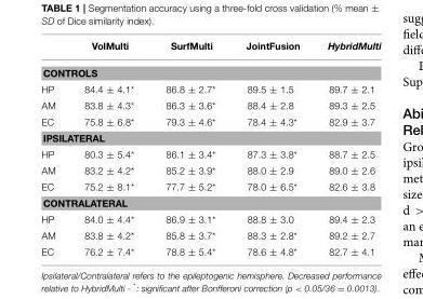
<table><thead><tr><td></td><td>VolMulti</td><td>SurfMulti</td><td>JointFusion</td><td>HybridMulti</td></tr></thead><tbody><tr><td colspan="5">CONTROLS</td></tr><tr><td>HP</td><td>84.4 ± 4.1*</td><td>86.8 ± 2.7*</td><td>89.5 ± 1.5</td><td>89.7 ± 2.1</td></tr><tr><td>AM</td><td>83.8 ± 4.3*</td><td>86.3 ± 3.6*</td><td>88.4 ± 2.8</td><td>89.3 ± 2.5</td></tr><tr><td>EC</td><td>75.8 ± 6.8*</td><td>79.3 ± 4.6*</td><td>78.4 ± 4.3*</td><td>82.9 ± 3.7</td></tr><tr><td colspan="5">IPSILATERAL</td></tr><tr><td>HP</td><td>80.3 ± 5.4*</td><td>86.1 ± 3.4*</td><td>87.3 ± 3.8*</td><td>88.7 ± 2.5</td></tr><tr><td>AM</td><td>83.2 ± 4.2*</td><td>85.2 ± 3.9*</td><td>88.0 ± 2.9</td><td>89.0 ± 2.6</td></tr><tr><td>EC</td><td>75.2 ± 8.1*</td><td>77.7 ± 5.2*</td><td>78.0 ± 6.5*</td><td>82.6 ± 3.8</td></tr><tr><td colspan="5">CONTRALATERAL</td></tr><tr><td>HP</td><td>84.0 ± 4.4*</td><td>86.9 ± 3.1*</td><td>88.8 ± 3.0</td><td>89.4 ± 2.3</td></tr><tr><td>AM</td><td>83.8 ± 4.2*</td><td>85.8 ± 3.7*</td><td>88.3 ± 2.8*</td><td>89.2 ± 2.7</td></tr><tr><td>EC</td><td>76.2 ± 7.4*</td><td>78.8 ± 5.4*</td><td>78.6 ± 4.8*</td><td>82.7 ± 4.1</td></tr></tbody></table>